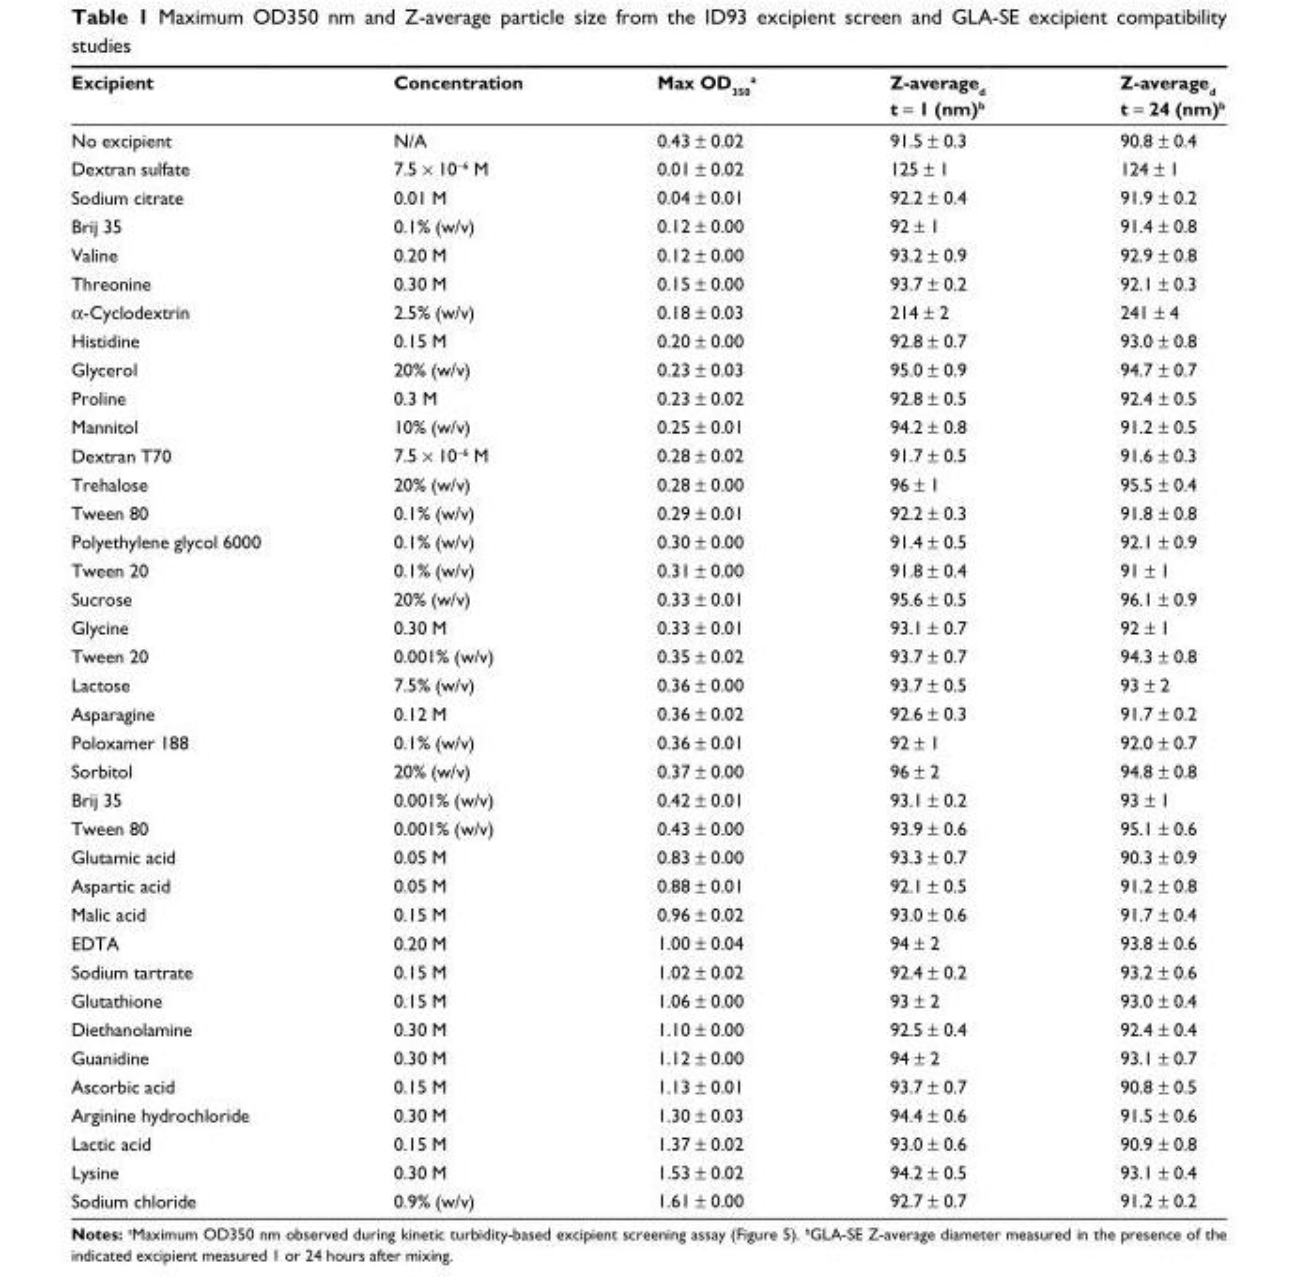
<table><thead><tr><td>Excipient</td><td>Concentration</td><td>Max OD<sub>350</sub> <sup>a</sup></td><td>Z-average<sub>d</sub> t = 1 (nm)<sup>b</sup></td><td>Z-average<sub>d</sub> t = 24 (nm)<sup>b</sup></td></tr></thead><tbody><tr><td>No excipient</td><td>N/a</td><td>0.43 ± 0.02</td><td>91.5 ± 0.3</td><td>90.8 ± 0.4</td></tr><tr><td>Dextran sulfate</td><td>7.5 × 10<sup>−6</sup> M</td><td>0.01 ± 0.02</td><td>125 ± 1</td><td>124 ± 1</td></tr><tr><td>sodium citrate</td><td>0.01 M</td><td>0.04 ± 0.01</td><td>92.2 ± 0.4</td><td>91.9 ± 0.2</td></tr><tr><td>Brij 35</td><td>0.1% (w/v)</td><td>0.12 ± 0.00</td><td>92 ± 1</td><td>91.4 ± 0.8</td></tr><tr><td>Valine</td><td>0.20 M</td><td>0.12 ± 0.00</td><td>93.2 ± 0.9</td><td>92.9 ± 0.8</td></tr><tr><td>Threonine</td><td>0.30 M</td><td>0.15 ± 0.00</td><td>93.7 ± 0.2</td><td>92.1 ± 0.3</td></tr><tr><td>α-cyclodextrin</td><td>2.5% (w/v)</td><td>0.18 ± 0.03</td><td>214 ± 2</td><td>241 ± 4</td></tr><tr><td>histidine</td><td>0.15 M</td><td>0.20 ± 0.00</td><td>92.8 ± 0.7</td><td>93.0 ± 0.8</td></tr><tr><td>glycerol</td><td>20% (w/v)</td><td>0.23 ± 0.03</td><td>95.0 ± 0.9</td><td>94.7 ± 0.7</td></tr><tr><td>Proline</td><td>0.3 M</td><td>0.23 ± 0.02</td><td>92.8 ± 0.5</td><td>92.4 ± 0.5</td></tr><tr><td>Mannitol</td><td>10% (w/v)</td><td>0.25 ± 0.01</td><td>94.2 ± 0.8</td><td>91.2 ± 0.5</td></tr><tr><td>Dextran T70</td><td>7.5 × 10<sup>−6</sup> M</td><td>0.28 ± 0.02</td><td>91.7 ± 0.5</td><td>91.6 ± 0.3</td></tr><tr><td>Trehalose</td><td>20% (w/v)</td><td>0.28 ± 0.00</td><td>96 ± 1</td><td>95.5 ± 0.4</td></tr><tr><td>Tween 80</td><td>0.1% (w/v)</td><td>0.29 ± 0.01</td><td>92.2 ± 0.3</td><td>91.8 ± 0.8</td></tr><tr><td>Polyethylene glycol 6000</td><td>0.1% (w/v)</td><td>0.30 ± 0.00</td><td>91.4 ± 0.5</td><td>92.1 ± 0.9</td></tr><tr><td>Tween 20</td><td>0.1% (w/v)</td><td>0.31 ± 0.00</td><td>91.8 ± 0.4</td><td>91 ± 1</td></tr><tr><td>sucrose</td><td>20% (w/v)</td><td>0.33 ± 0.01</td><td>95.6 ± 0.5</td><td>96.1 ± 0.9</td></tr><tr><td>glycine</td><td>0.30 M</td><td>0.33 ± 0.01</td><td>93.1 ± 0.7</td><td>92 ± 1</td></tr><tr><td>Tween 20</td><td>0.001% (w/v)</td><td>0.35 ± 0.02</td><td>93.7 ± 0.7</td><td>94.3 ± 0.8</td></tr><tr><td>lactose</td><td>7.5% (w/v)</td><td>0.36 ± 0.00</td><td>93.7 ± 0.5</td><td>93 ± 2</td></tr><tr><td>asparagine</td><td>0.12 M</td><td>0.36 ± 0.02</td><td>92.6 ± 0.3</td><td>91.7 ± 0.2</td></tr><tr><td>Poloxamer 188</td><td>0.1% (w/v)</td><td>0.36 ± 0.01</td><td>92 ± 1</td><td>92.0 ± 0.7</td></tr><tr><td>sorbitol</td><td>20% (w/v)</td><td>0.37 ± 0.00</td><td>96 ± 2</td><td>94.8 ± 0.8</td></tr><tr><td>Brij 35</td><td>0.001% (w/v)</td><td>0.42 ± 0.01</td><td>93.1 ± 0.2</td><td>93 ± 1</td></tr><tr><td>Tween 80</td><td>0.001% (w/v)</td><td>0.43 ± 0.00</td><td>93.9 ± 0.6</td><td>95.1 ± 0.6</td></tr><tr><td>glutamic acid</td><td>0.05 M</td><td>0.83 ± 0.00</td><td>93.3 ± 0.7</td><td>90.3 ± 0.9</td></tr><tr><td>aspartic acid</td><td>0.05 M</td><td>0.88 ± 0.01</td><td>92.1 ± 0.5</td><td>91.2 ± 0.8</td></tr><tr><td>Malic acid</td><td>0.15 M</td><td>0.96 ± 0.02</td><td>93.0 ± 0.6</td><td>91.7 ± 0.4</td></tr><tr><td>eDTa</td><td>0.20 M</td><td>1.00 ± 0.04</td><td>94 ± 2</td><td>93.8 ± 0.6</td></tr><tr><td>sodium tartrate</td><td>0.15 M</td><td>1.02 ± 0.02</td><td>92.4 ± 0.2</td><td>93.2 ± 0.6</td></tr><tr><td>glutathione</td><td>0.15 M</td><td>1.06 ± 0.00</td><td>93 ± 2</td><td>93.0 ± 0.4</td></tr><tr><td>Diethanolamine</td><td>0.30 M</td><td>1.10 ± 0.00</td><td>92.5 ± 0.4</td><td>92.4 ± 0.4</td></tr><tr><td>guanidine</td><td>0.30 M</td><td>1.12 ± 0.00</td><td>94 ± 2</td><td>93.1 ± 0.7</td></tr><tr><td>ascorbic acid</td><td>0.15 M</td><td>1.13 ± 0.01</td><td>93.7 ± 0.7</td><td>90.8 ± 0.5</td></tr><tr><td>arginine hydrochloride</td><td>0.30 M</td><td>1.30 ± 0.03</td><td>94.4 ± 0.6</td><td>91.5 ± 0.6</td></tr><tr><td>lactic acid</td><td>0.15 M</td><td>1.37 ± 0.02</td><td>93.0 ± 0.6</td><td>90.9 ± 0.8</td></tr><tr><td>lysine</td><td>0.30 M</td><td>1.53 ± 0.02</td><td>94.2 ± 0.5</td><td>93.1 ± 0.4</td></tr><tr><td>sodium chloride</td><td>0.9% (w/v)</td><td>1.61 ± 0.00</td><td>92.7 ± 0.7</td><td>91.2 ± 0.2</td></tr></tbody></table>